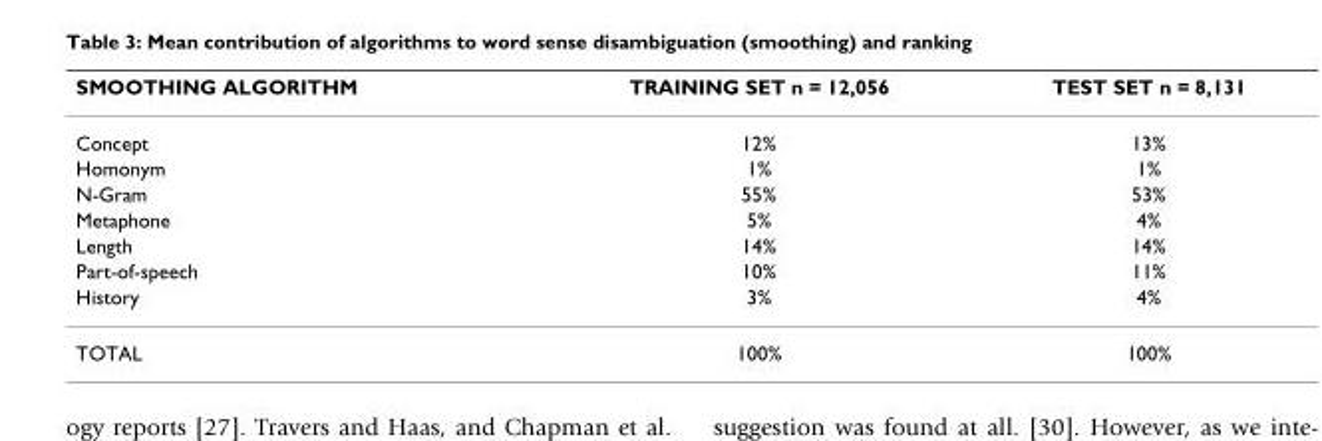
<table><thead><tr><td>SMOOTHING ALGORITHM</td><td>TRAINING SET n = 12,056</td><td>TEST SET n = 8,131</td></tr></thead><tbody><tr><td>Concept</td><td>12%</td><td>13%</td></tr><tr><td>Homonym</td><td>1%</td><td>1%</td></tr><tr><td>N-Gram</td><td>55%</td><td>53%</td></tr><tr><td>Metaphone</td><td>5%</td><td>4%</td></tr><tr><td>Length</td><td>14%</td><td>14%</td></tr><tr><td>Part-of-speech</td><td>10%</td><td>11%</td></tr><tr><td>History</td><td>3%</td><td>4%</td></tr><tr><td>TOTAL</td><td>100%</td><td>100%</td></tr></tbody></table>